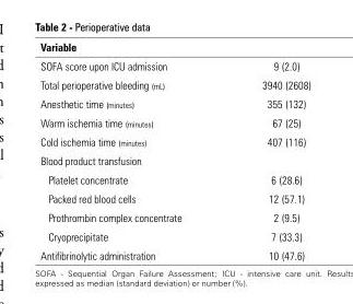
<table><thead><tr><td>Variable</td><td></td></tr></thead><tbody><tr><td>SOFA score upon ICU admission</td><td>9 (2.0)</td></tr><tr><td>Total perioperative bleeding (mL)</td><td>3940 (2608)</td></tr><tr><td>Anesthetic time (minutes)</td><td>355 (132)</td></tr><tr><td>Warm ischemia time (minutes)</td><td>67 (25)</td></tr><tr><td>Cold ischemia time (minutes)</td><td>407 (116)</td></tr><tr><td colspan="2">Blood product transfusion</td></tr><tr><td>Platelet concentrate</td><td>6 (28.6)</td></tr><tr><td>Packed red blood cells</td><td>12 (57.1)</td></tr><tr><td>Prothrombin complex concentrate</td><td>2 (9.5)</td></tr><tr><td>Cryoprecipitate</td><td>7 (33.3)</td></tr><tr><td>Antifibrinolytic administration</td><td>10 (47.6)</td></tr></tbody></table>